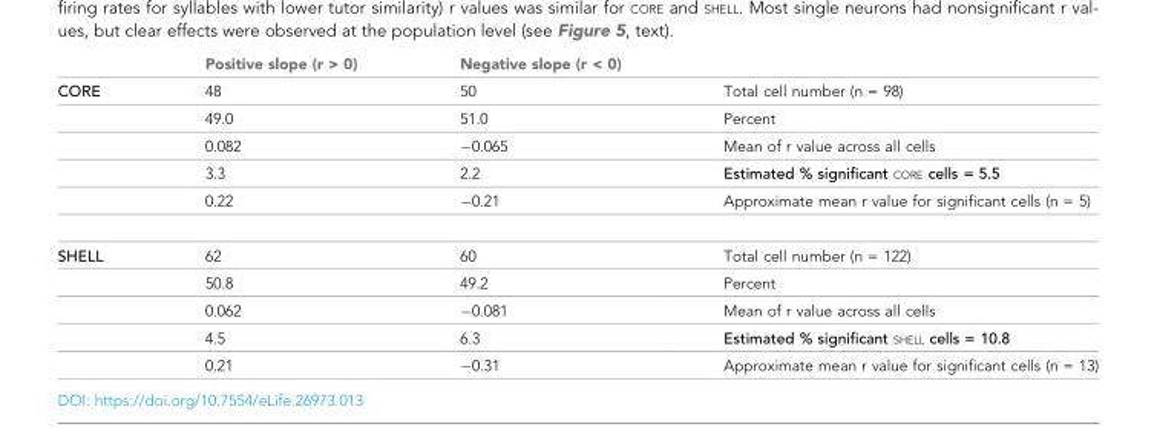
<table><thead><tr><td></td><td>Positive slope (r &gt; 0)</td><td>Negative slope (r &lt; 0)</td><td></td></tr></thead><tbody><tr><td rowspan="5">CORE</td><td>48</td><td>50</td><td>Total cell number (n = 98)</td></tr><tr><td>49.0</td><td>51.0</td><td>Percent</td></tr><tr><td>0.082</td><td>−0.065</td><td>Mean of r value across all cells</td></tr><tr><td>3.3</td><td>2.2</td><td>Estimated % significant CORE cells = 5.5</td></tr><tr><td>0.22</td><td>−0.21</td><td>Approximate mean r value for significant cells (n = 5)</td></tr><tr><td rowspan="5">SHELL</td><td>62</td><td>60</td><td>Total cell number (n = 122)</td></tr><tr><td>50.8</td><td>49.2</td><td>Percent</td></tr><tr><td>0.062</td><td>−0.081</td><td>Mean of r value across all cells</td></tr><tr><td>4.5</td><td>6.3</td><td>Estimated % significant SHELL cells = 10.8</td></tr><tr><td>0.21</td><td>−0.31</td><td>Approximate mean r value for significant cells (n = 13)</td></tr></tbody></table>